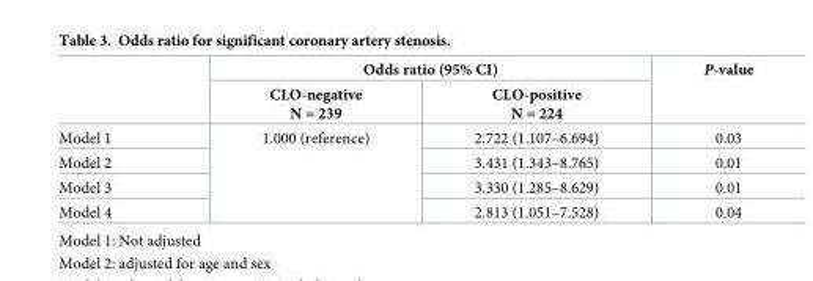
<table><thead><tr><td rowspan="2"></td><td colspan="2">Odds ratio (95% CI)</td><td rowspan="2">P-value</td></tr><tr><td>CLO-negative N = 239</td><td>CLO-positive N = 224</td></tr></thead><tbody><tr><td>Model 1</td><td rowspan="4">1.000 (reference)</td><td>2.722 (1.107–6.694)</td><td>0.03</td></tr><tr><td>Model 2</td><td>3.431 (1.343–8.765)</td><td>0.01</td></tr><tr><td>Model 3</td><td>3.330 (1.285–8.629)</td><td>0.01</td></tr><tr><td>Model 4</td><td>2.813 (1.051–7.528)</td><td>0.04</td></tr></tbody></table>